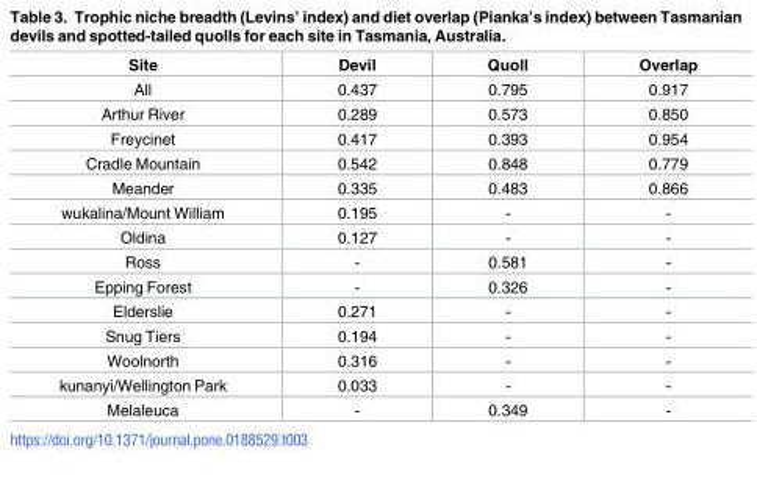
<table><thead><tr><td>Site</td><td>Devil</td><td>Quoll</td><td>Overlap</td></tr></thead><tbody><tr><td>All</td><td>0.437</td><td>0.795</td><td>0.917</td></tr><tr><td>Arthur River</td><td>0.289</td><td>0.573</td><td>0.850</td></tr><tr><td>Freycinet</td><td>0.417</td><td>0.393</td><td>0.954</td></tr><tr><td>Cradle Mountain</td><td>0.542</td><td>0.848</td><td>0.779</td></tr><tr><td>Meander</td><td>0.335</td><td>0.483</td><td>0.866</td></tr><tr><td>wukalina/Mount William</td><td>0.195</td><td>-</td><td>-</td></tr><tr><td>Oldina</td><td>0.127</td><td>-</td><td>-</td></tr><tr><td>Ross</td><td>-</td><td>0.581</td><td>-</td></tr><tr><td>Epping Forest</td><td>-</td><td>0.326</td><td>-</td></tr><tr><td>Elderslie</td><td>0.271</td><td>-</td><td>-</td></tr><tr><td>Snug Tiers</td><td>0.194</td><td>-</td><td>-</td></tr><tr><td>Woolnorth</td><td>0.316</td><td>-</td><td>-</td></tr><tr><td>kunanyi/Wellington Park</td><td>0.033</td><td>-</td><td>-</td></tr><tr><td>Melaleuca</td><td>-</td><td>0.349</td><td>-</td></tr></tbody></table>